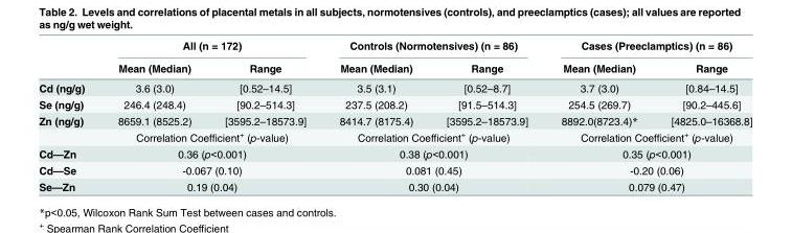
<table><thead><tr><td rowspan="2"></td><td colspan="2">All (n = 172)</td><td colspan="2">Controls (Normotensives) (n = 86)</td><td colspan="2">Cases (Preeclamptics) (n = 86)</td></tr><tr><td>Mean (Median)</td><td>Range</td><td>Mean (Median)</td><td>Range</td><td>Mean (Median)</td><td>Range</td></tr></thead><tbody><tr><td>Cd (ng/g)</td><td>3.6 (3.0)</td><td>[0.52–14.5]</td><td>3.5 (3.1)</td><td>[0.52–8.7]</td><td>3.7 (3.0)</td><td>[0.84–14.5]</td></tr><tr><td>Se (ng/g)</td><td>246.4 (248.4)</td><td>[90.2–514.3]</td><td>237.5 (208.2)</td><td>[91.5–514.3]</td><td>254.5 (269.7)</td><td>[90.2–445.6]</td></tr><tr><td rowspan="2">Zn (ng/g)</td><td>8659.1 (8525.2)</td><td>[3595.2–18573.9]</td><td>8414.7 (8175.4)</td><td>[3595.2–18573.9]</td><td>8892.0(8723.4)*</td><td>[4825.0–16368.8]</td></tr><tr><td colspan="2">Correlation Coefficient<sup>+</sup> (p-value)</td><td colspan="2">Correlation Coefficient<sup>+</sup> (p-value)</td><td colspan="2">Correlation Coefficient<sup>+</sup> (p-value)</td></tr><tr><td>Cd—Zn</td><td colspan="2">0.36 (p&lt;0.001)</td><td colspan="2">0.38 (p&lt;0.001)</td><td colspan="2">0.35 (p&lt;0.001)</td></tr><tr><td>Cd—Se</td><td colspan="2">-0.067 (0.10)</td><td colspan="2">0.081 (0.45)</td><td colspan="2">-0.20 (0.06)</td></tr><tr><td>Se—Zn</td><td colspan="2">0.19 (0.04)</td><td colspan="2">0.30 (0.04)</td><td colspan="2">0.079 (0.47)</td></tr></tbody></table>